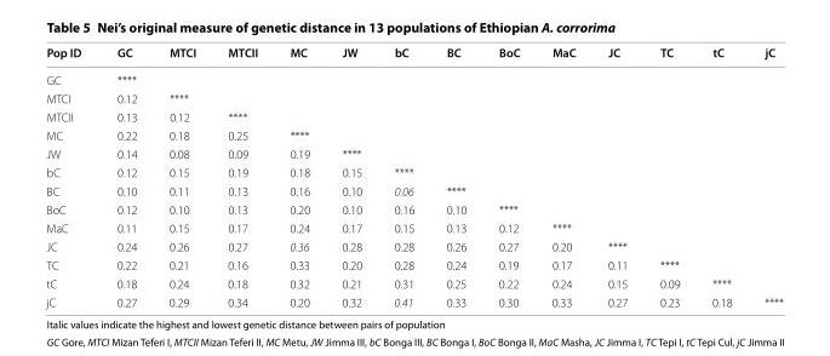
<table><thead><tr><td>Pop ID</td><td>GC</td><td>MTCI</td><td>MTCII</td><td>MC</td><td>JW</td><td>bC</td><td>BC</td><td>BoC</td><td>MaC</td><td>JC</td><td>TC</td><td>tC</td><td>jC</td></tr></thead><tbody><tr><td>GC</td><td>****</td><td></td><td></td><td></td><td></td><td></td><td></td><td></td><td></td><td></td><td></td><td></td><td></td></tr><tr><td>MTCI</td><td>0.12</td><td>****</td><td></td><td></td><td></td><td></td><td></td><td></td><td></td><td></td><td></td><td></td><td></td></tr><tr><td>MTCII</td><td>0.13</td><td>0.12</td><td>****</td><td></td><td></td><td></td><td></td><td></td><td></td><td></td><td></td><td></td><td></td></tr><tr><td>MC</td><td>0.22</td><td>0.18</td><td>0.25</td><td>****</td><td></td><td></td><td></td><td></td><td></td><td></td><td></td><td></td><td></td></tr><tr><td>JW</td><td>0.14</td><td>0.08</td><td>0.09</td><td>0.19</td><td>****</td><td></td><td></td><td></td><td></td><td></td><td></td><td></td><td></td></tr><tr><td>bC</td><td>0.12</td><td>0.15</td><td>0.19</td><td>0.18</td><td>0.15</td><td>****</td><td></td><td></td><td></td><td></td><td></td><td></td><td></td></tr><tr><td>BC</td><td>0.10</td><td>0.11</td><td>0.13</td><td>0.16</td><td>0.10</td><td>0.06</td><td>****</td><td></td><td></td><td></td><td></td><td></td><td></td></tr><tr><td>BoC</td><td>0.12</td><td>0.10</td><td>0.13</td><td>0.20</td><td>0.10</td><td>0.16</td><td>0.10</td><td>****</td><td></td><td></td><td></td><td></td><td></td></tr><tr><td>MaC</td><td>0.11</td><td>0.15</td><td>0.17</td><td>0.24</td><td>0.17</td><td>0.15</td><td>0.13</td><td>0.12</td><td>****</td><td></td><td></td><td></td><td></td></tr><tr><td>JC</td><td>0.24</td><td>0.26</td><td>0.27</td><td>0.36</td><td>0.28</td><td>0.28</td><td>0.26</td><td>0.27</td><td>0.20</td><td>****</td><td></td><td></td><td></td></tr><tr><td>TC</td><td>0.22</td><td>0.21</td><td>0.16</td><td>0.33</td><td>0.20</td><td>0.28</td><td>0.24</td><td>0.19</td><td>0.17</td><td>0.11</td><td>****</td><td></td><td></td></tr><tr><td>tC</td><td>0.18</td><td>0.24</td><td>0.18</td><td>0.32</td><td>0.21</td><td>0.31</td><td>0.25</td><td>0.22</td><td>0.24</td><td>0.15</td><td>0.09</td><td>****</td><td></td></tr><tr><td>jC</td><td>0.27</td><td>0.29</td><td>0.34</td><td>0.20</td><td>0.32</td><td>0.41</td><td>0.33</td><td>0.30</td><td>0.33</td><td>0.27</td><td>0.23</td><td>0.18</td><td>****</td></tr></tbody></table>